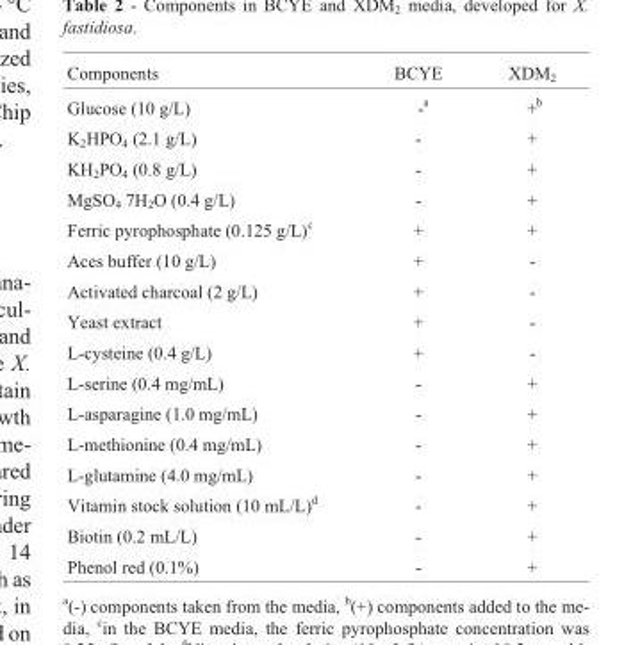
<table><thead><tr><td>Components</td><td>BCYE</td><td>XDM<sub>2</sub></td></tr></thead><tbody><tr><td>Glucose (10 g/L)</td><td>-<sup>a</sup></td><td>+<sup>b</sup></td></tr><tr><td>K<sub>2</sub>HPO<sub>4</sub> (2.1 g/L)</td><td>-</td><td>+</td></tr><tr><td>KH<sub>2</sub>PO<sub>4</sub> (0.8 g/L)</td><td>-</td><td>+</td></tr><tr><td>MgSO<sub>4</sub> 7H<sub>2</sub>O (0.4 g/L)</td><td>-</td><td>+</td></tr><tr><td>Ferric pyrophosphate (0.125 g/L)<sup>c</sup></td><td>+</td><td>+</td></tr><tr><td>Aces buffer (10 g/L)</td><td>+</td><td>-</td></tr><tr><td>Activated charcoal (2 g/L)</td><td>+</td><td>-</td></tr><tr><td>Yeast extract</td><td>+</td><td>-</td></tr><tr><td>L-cysteine (0.4 g/L)</td><td>+</td><td>-</td></tr><tr><td>L-serine (0.4 mg/mL)</td><td>-</td><td>+</td></tr><tr><td>L-asparagine (1.0 mg/mL)</td><td>-</td><td>+</td></tr><tr><td>L-methionine (0.4 mg/mL)</td><td>-</td><td>+</td></tr><tr><td>L-glutamine (4.0 mg/mL)</td><td>-</td><td>+</td></tr><tr><td>Vitamin stock solution (10 mL/L)<sup>d</sup></td><td>-</td><td>+</td></tr><tr><td>Biotin (0.2 mL/L)</td><td>-</td><td>+</td></tr><tr><td>Phenol red (0.1%)</td><td>-</td><td>+</td></tr></tbody></table>